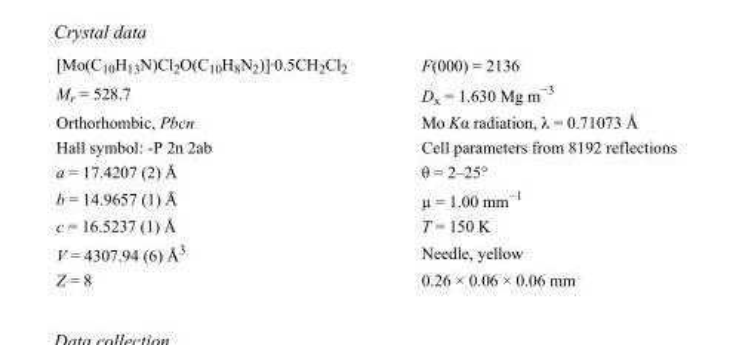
<table><tbody><tr><td>[Mo(C<sub>10</sub>H<sub>13</sub>N)Cl<sub>2</sub>O(C<sub>10</sub>H<sub>8</sub>N<sub>2</sub>)]·0.5CH<sub>2</sub>Cl<sub>2</sub></td><td>F(000) = 2136</td></tr><tr><td>M<sub>r</sub> = 528.7</td><td>D<sub>x</sub> = 1.630 Mg m<sup>−3</sup></td></tr><tr><td>Orthorhombic, Pbcn</td><td>Mo Kα radiation, λ = 0.71073 Å</td></tr><tr><td>Hall symbol: -P 2n 2ab</td><td>Cell parameters from 8192 reflections</td></tr><tr><td>a = 17.4207 (2) Å</td><td>θ = 2–25°</td></tr><tr><td>b = 14.9657 (1) Å</td><td>µ = 1.00 mm<sup>−1</sup></td></tr><tr><td>c = 16.5237 (1) Å</td><td>T = 150 K</td></tr><tr><td>V = 4307.94 (6) Å<sup>3</sup></td><td>Needle, yellow</td></tr><tr><td>Z = 8</td><td>0.26 × 0.06 × 0.06 mm</td></tr></tbody></table>